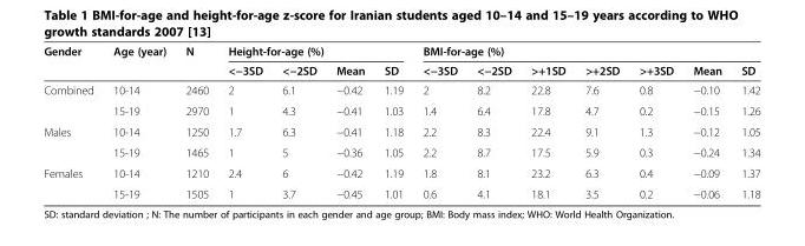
<table><thead><tr><td rowspan="2">Gender</td><td rowspan="2">Age (year)</td><td rowspan="2">N</td><td colspan="4">Height-for-age (%)</td><td colspan="7">BMI-for-age (%)</td></tr><tr><td>&lt;−3SD</td><td>&lt;−2SD</td><td>Mean</td><td>SD</td><td>&lt;−3SD</td><td>&lt;−2SD</td><td>&gt;+1SD</td><td>&gt;+2SD</td><td>&gt;+3SD</td><td>Mean</td><td>SD</td></tr></thead><tbody><tr><td rowspan="2">Combined</td><td>10-14</td><td>2460</td><td>2</td><td>6.1</td><td>−0.42</td><td>1.19</td><td>2</td><td>8.2</td><td>22.8</td><td>7.6</td><td>0.8</td><td>−0.10</td><td>1.42</td></tr><tr><td>15-19</td><td>2970</td><td>1</td><td>4.3</td><td>−0.41</td><td>1.03</td><td>1.4</td><td>6.4</td><td>17.8</td><td>4.7</td><td>0.2</td><td>−0.15</td><td>1.26</td></tr><tr><td rowspan="2">Males</td><td>10-14</td><td>1250</td><td>1.7</td><td>6.3</td><td>−0.41</td><td>1.18</td><td>2.2</td><td>8.3</td><td>22.4</td><td>9.1</td><td>1.3</td><td>−0.12</td><td>1.05</td></tr><tr><td>15-19</td><td>1465</td><td>1</td><td>5</td><td>−0.36</td><td>1.05</td><td>2.2</td><td>8.7</td><td>17.5</td><td>5.9</td><td>0.3</td><td>−0.24</td><td>1.34</td></tr><tr><td rowspan="2">Females</td><td>10-14</td><td>1210</td><td>2.4</td><td>6</td><td>−0.42</td><td>1.19</td><td>1.8</td><td>8.1</td><td>23.2</td><td>6.3</td><td>0.4</td><td>−0.09</td><td>1.37</td></tr><tr><td>15-19</td><td>1505</td><td>1</td><td>3.7</td><td>−0.45</td><td>1.01</td><td>0.6</td><td>4.1</td><td>18.1</td><td>3.5</td><td>0.2</td><td>−0.06</td><td>1.18</td></tr></tbody></table>